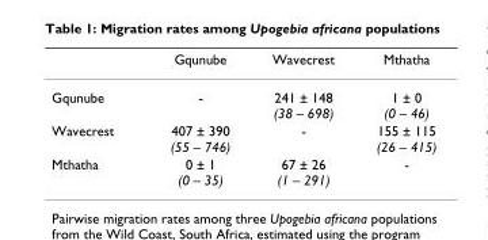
<table><thead><tr><td></td><td>Gqunube</td><td>Wavecrest</td><td>Mthatha</td></tr></thead><tbody><tr><td>Gqunube</td><td>-</td><td>241 ± 148 (38 – 698)</td><td>1 ± 0 (0 – 46)</td></tr><tr><td>Wavecrest</td><td>407 ± 390 (55 – 746)</td><td>-</td><td>155 ± 115 (26 – 415)</td></tr><tr><td>Mthatha</td><td>0 ± 1 (0 – 35)</td><td>67 ± 26 (1 – 291)</td><td>-</td></tr></tbody></table>